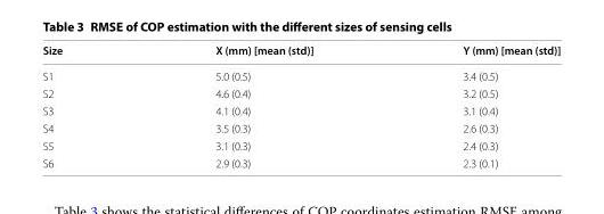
<table><thead><tr><td>Size</td><td>X (mm) [mean (std)]</td><td>Y (mm) [mean (std)]</td></tr></thead><tbody><tr><td>S1</td><td>5.0 (0.5)</td><td>3.4 (0.5)</td></tr><tr><td>S2</td><td>4.6 (0.4)</td><td>3.2 (0.5)</td></tr><tr><td>S3</td><td>4.1 (0.4)</td><td>3.1 (0.4)</td></tr><tr><td>S4</td><td>3.5 (0.3)</td><td>2.6 (0.3)</td></tr><tr><td>S5</td><td>3.1 (0.3)</td><td>2.4 (0.3)</td></tr><tr><td>S6</td><td>2.9 (0.3)</td><td>2.3 (0.1)</td></tr></tbody></table>